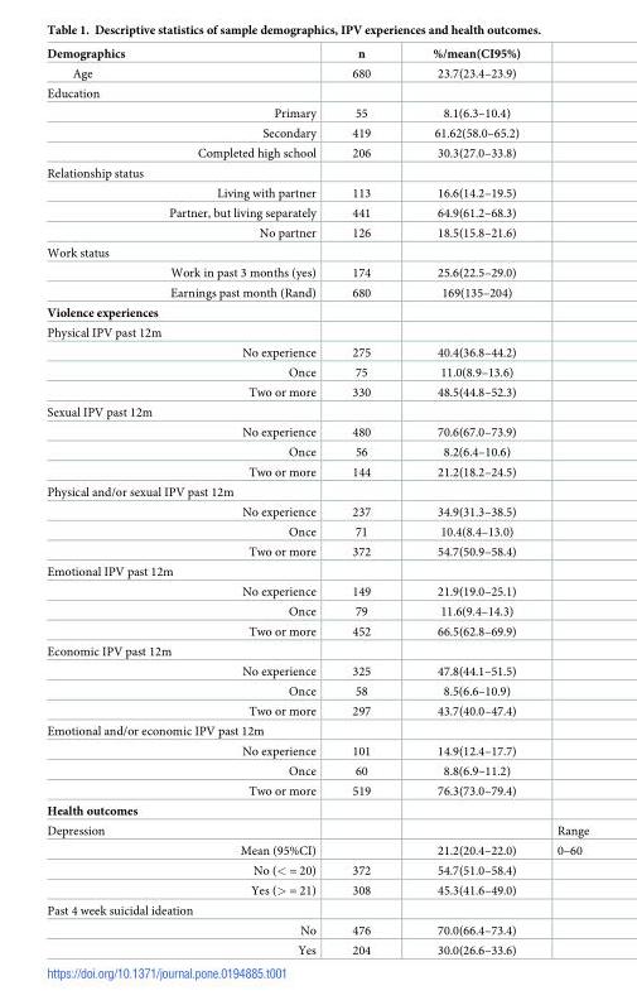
<table><thead><tr><td>Demographics</td><td>n</td><td>%/mean(CI95%)</td><td></td></tr></thead><tbody><tr><td>Age</td><td>680</td><td>23.7(23.4–23.9)</td><td></td></tr><tr><td colspan="4">Education</td></tr><tr><td>Primary</td><td>55</td><td>8.1(6.3–10.4)</td><td></td></tr><tr><td>Secondary</td><td>419</td><td>61.62(58.0–65.2)</td><td></td></tr><tr><td>Completed high school</td><td>206</td><td>30.3(27.0–33.8)</td><td></td></tr><tr><td colspan="4">Relationship status</td></tr><tr><td>Living with partner</td><td>113</td><td>16.6(14.2–19.5)</td><td></td></tr><tr><td>Partner, but living separately</td><td>441</td><td>64.9(61.2–68.3)</td><td></td></tr><tr><td>No partner</td><td>126</td><td>18.5(15.8–21.6)</td><td></td></tr><tr><td colspan="4">Work status</td></tr><tr><td>Work in past 3 months (yes)</td><td>174</td><td>25.6(22.5–29.0)</td><td></td></tr><tr><td>Earnings past month (Rand)</td><td>680</td><td>169(135–204)</td><td></td></tr><tr><td colspan="4">Violence experiences</td></tr><tr><td colspan="4">Physical IPV past 12m</td></tr><tr><td>No experience</td><td>275</td><td>40.4(36.8–44.2)</td><td></td></tr><tr><td>Once</td><td>75</td><td>11.0(8.9–13.6)</td><td></td></tr><tr><td>Two or more</td><td>330</td><td>48.5(44.8–52.3)</td><td></td></tr><tr><td colspan="4">Sexual IPV past 12m</td></tr><tr><td>No experience</td><td>480</td><td>70.6(67.0–73.9)</td><td></td></tr><tr><td>Once</td><td>56</td><td>8.2(6.4–10.6)</td><td></td></tr><tr><td>Two or more</td><td>144</td><td>21.2(18.2–24.5)</td><td></td></tr><tr><td colspan="4">Physical and/or sexual IPV past 12m</td></tr><tr><td>No experience</td><td>237</td><td>34.9(31.3–38.5)</td><td></td></tr><tr><td>Once</td><td>71</td><td>10.4(8.4–13.0)</td><td></td></tr><tr><td>Two or more</td><td>372</td><td>54.7(50.9–58.4)</td><td></td></tr><tr><td colspan="4">Emotional IPV past 12m</td></tr><tr><td>No experience</td><td>149</td><td>21.9(19.0–25.1)</td><td></td></tr><tr><td>Once</td><td>79</td><td>11.6(9.4–14.3)</td><td></td></tr><tr><td>Two or more</td><td>452</td><td>66.5(62.8–69.9)</td><td></td></tr><tr><td colspan="4">Economic IPV past 12m</td></tr><tr><td>No experience</td><td>325</td><td>47.8(44.1–51.5)</td><td></td></tr><tr><td>Once</td><td>58</td><td>8.5(6.6–10.9)</td><td></td></tr><tr><td>Two or more</td><td>297</td><td>43.7(40.0–47.4)</td><td></td></tr><tr><td colspan="4">Emotional and/or economic IPV past 12m</td></tr><tr><td>No experience</td><td>101</td><td>14.9(12.4–17.7)</td><td></td></tr><tr><td>Once</td><td>60</td><td>8.8(6.9–11.2)</td><td></td></tr><tr><td>Two or more</td><td>519</td><td>76.3(73.0–79.4)</td><td></td></tr><tr><td colspan="4">Health outcomes</td></tr><tr><td>Depression</td><td></td><td></td><td>Range</td></tr><tr><td>Mean (95%CI)</td><td></td><td>21.2(20.4–22.0)</td><td>0–60</td></tr><tr><td>No (&lt; = 20)</td><td>372</td><td>54.7(51.0–58.4)</td><td></td></tr><tr><td>Yes (&gt; = 21)</td><td>308</td><td>45.3(41.6–49.0)</td><td></td></tr><tr><td colspan="4">Past 4 week suicidal ideation</td></tr><tr><td>No</td><td>476</td><td>70.0(66.4–73.4)</td><td></td></tr><tr><td>Yes</td><td>204</td><td>30.0(26.6–33.6)</td><td></td></tr></tbody></table>